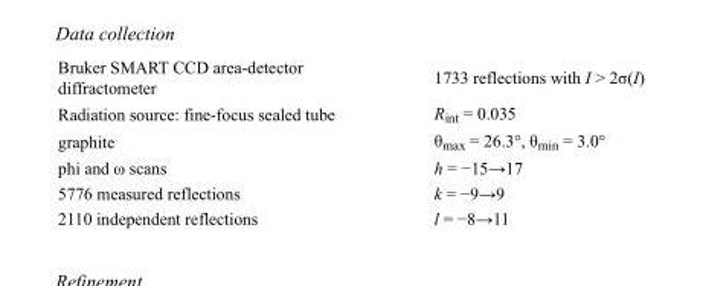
<table><tbody><tr><td>Bruker SMART CCD area-detector diffractometer</td><td>1733 reflections with I &gt; 2σ(I)</td></tr><tr><td>Radiation source: fine-focus sealed tube</td><td>R<sub>int</sub> = 0.035</td></tr><tr><td>graphite</td><td>θ<sub>max</sub> = 26.3°, θ<sub>min</sub> = 3.0°</td></tr><tr><td>phi and ω scans</td><td>h = −15→17</td></tr><tr><td>5776 measured reflections</td><td>k = −9→9</td></tr><tr><td>2110 independent reflections</td><td>l = −8→11</td></tr></tbody></table>